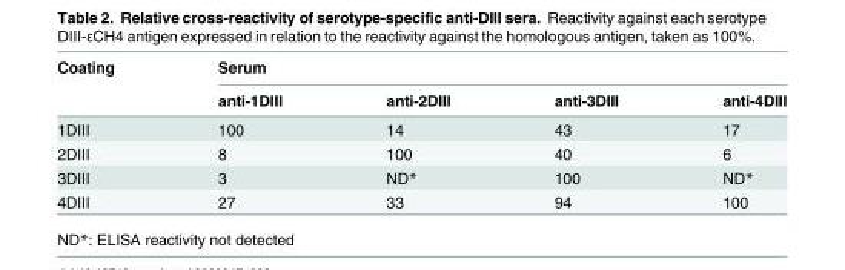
<table><thead><tr><td rowspan="2">Coating</td><td colspan="4">Serum</td></tr><tr><td>anti-1DIII</td><td>anti-2DIII</td><td>anti-3DIII</td><td>anti-4DIII</td></tr></thead><tbody><tr><td>1DIII</td><td>100</td><td>14</td><td>43</td><td>17</td></tr><tr><td>2DIII</td><td>8</td><td>100</td><td>40</td><td>6</td></tr><tr><td>3DIII</td><td>3</td><td>ND*</td><td>100</td><td>ND*</td></tr><tr><td>4DIII</td><td>27</td><td>33</td><td>94</td><td>100</td></tr></tbody></table>